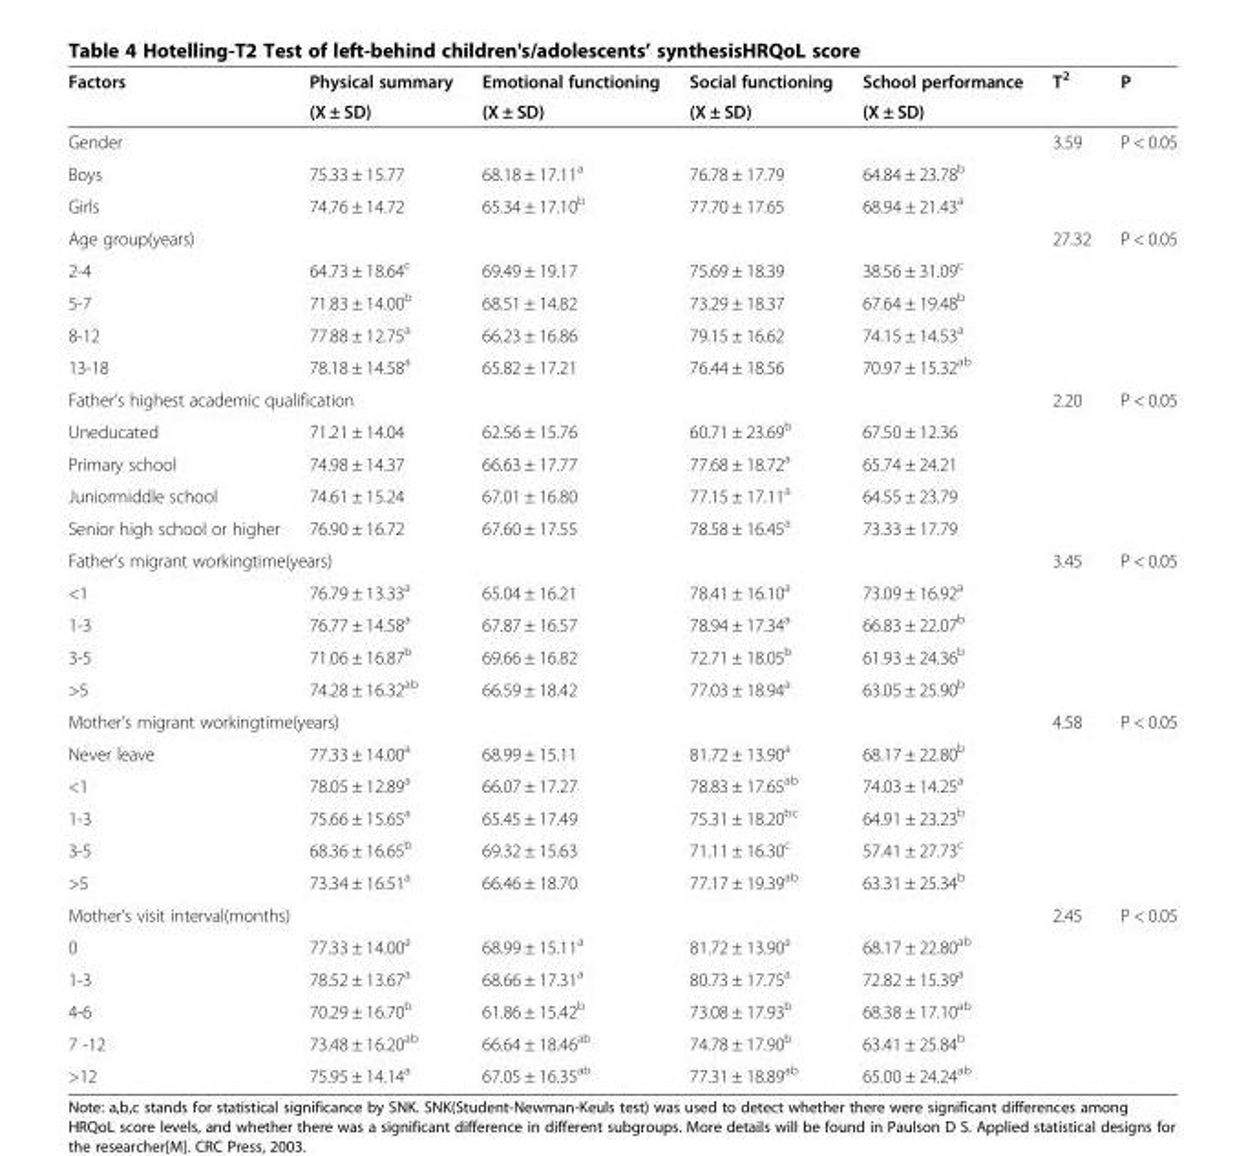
<table><thead><tr><td rowspan="2">Factors</td><td rowspan="2">Physical summary (X ± SD)</td><td rowspan="2">Emotional functioning (X ± SD)</td><td rowspan="2">Social functioning (X ± SD)</td><td rowspan="2">School performance (X ± SD)</td><td rowspan="2">T<sup>2</sup></td><td rowspan="2">P</td></tr><tr></tr></thead><tbody><tr><td colspan="5">Gender</td><td>3.59</td><td>P &lt; 0.05</td></tr><tr><td>Boys</td><td>75.33 ± 15.77</td><td>68.18 ± 17.11<sup>a</sup></td><td>76.78 ± 17.79</td><td>64.84 ± 23.78<sup>b</sup></td><td></td><td></td></tr><tr><td>Girls</td><td>74.76 ± 14.72</td><td>65.34 ± 17.10<sup>b</sup></td><td>77.70 ± 17.65</td><td>68.94 ± 21.43<sup>a</sup></td><td></td><td></td></tr><tr><td colspan="5">Age group(years)</td><td>27.32</td><td>P &lt; 0.05</td></tr><tr><td>2-4</td><td>64.73 ± 18.64<sup>c</sup></td><td>69.49 ± 19.17</td><td>75.69 ± 18.39</td><td>38.56 ± 31.09<sup>c</sup></td><td></td><td></td></tr><tr><td>5-7</td><td>71.83 ± 14.00<sup>b</sup></td><td>68.51 ± 14.82</td><td>73.29 ± 18.37</td><td>67.64 ± 19.48<sup>b</sup></td><td></td><td></td></tr><tr><td>8-12</td><td>77.88 ± 12.75<sup>a</sup></td><td>66.23 ± 16.86</td><td>79.15 ± 16.62</td><td>74.15 ± 14.53<sup>a</sup></td><td></td><td></td></tr><tr><td>13-18</td><td>78.18 ± 14.58<sup>a</sup></td><td>65.82 ± 17.21</td><td>76.44 ± 18.56</td><td>70.97 ± 15.32<sup>ab</sup></td><td></td><td></td></tr><tr><td colspan="5">Father’s highest academic qualification</td><td>2.20</td><td>P &lt; 0.05</td></tr><tr><td>Uneducated</td><td>71.21 ± 14.04</td><td>62.56 ± 15.76</td><td>60.71 ± 23.69<sup>b</sup></td><td>67.50 ± 12.36</td><td></td><td></td></tr><tr><td>Primary school</td><td>74.98 ± 14.37</td><td>66.63 ± 17.77</td><td>77.68 ± 18.72<sup>a</sup></td><td>65.74 ± 24.21</td><td></td><td></td></tr><tr><td>Juniormiddle school</td><td>74.61 ± 15.24</td><td>67.01 ± 16.80</td><td>77.15 ± 17.11<sup>a</sup></td><td>64.55 ± 23.79</td><td></td><td></td></tr><tr><td>Senior high school or higher</td><td>76.90 ± 16.72</td><td>67.60 ± 17.55</td><td>78.58 ± 16.45<sup>a</sup></td><td>73.33 ± 17.79</td><td></td><td></td></tr><tr><td colspan="5">Father’s migrant workingtime(years)</td><td>3.45</td><td>P &lt; 0.05</td></tr><tr><td>&lt;1</td><td>76.79 ± 13.33<sup>a</sup></td><td>65.04 ± 16.21</td><td>78.41 ± 16.10<sup>a</sup></td><td>73.09 ± 16.92<sup>a</sup></td><td></td><td></td></tr><tr><td>1-3</td><td>76.77 ± 14.58<sup>a</sup></td><td>67.87 ± 16.57</td><td>78.94 ± 17.34<sup>a</sup></td><td>66.83 ± 22.07<sup>b</sup></td><td></td><td></td></tr><tr><td>3-5</td><td>71.06 ± 16.87<sup>b</sup></td><td>69.66 ± 16.82</td><td>72.71 ± 18.05<sup>b</sup></td><td>61.93 ± 24.36<sup>b</sup></td><td></td><td></td></tr><tr><td>&gt;5</td><td>74.28 ± 16.32<sup>ab</sup></td><td>66.59 ± 18.42</td><td>77.03 ± 18.94<sup>a</sup></td><td>63.05 ± 25.90<sup>b</sup></td><td></td><td></td></tr><tr><td colspan="5">Mother’s migrant workingtime(years)</td><td>4.58</td><td>P &lt; 0.05</td></tr><tr><td>Never leave</td><td>77.33 ± 14.00<sup>a</sup></td><td>68.99 ± 15.11</td><td>81.72 ± 13.90<sup>a</sup></td><td>68.17 ± 22.80<sup>b</sup></td><td></td><td></td></tr><tr><td>&lt;1</td><td>78.05 ± 12.89<sup>a</sup></td><td>66.07 ± 17.27</td><td>78.83 ± 17.65<sup>ab</sup></td><td>74.03 ± 14.25<sup>a</sup></td><td></td><td></td></tr><tr><td>1-3</td><td>75.66 ± 15.65<sup>a</sup></td><td>65.45 ± 17.49</td><td>75.31 ± 18.20<sup>bc</sup></td><td>64.91 ± 23.23<sup>b</sup></td><td></td><td></td></tr><tr><td>3-5</td><td>68.36 ± 16.65<sup>b</sup></td><td>69.32 ± 15.63</td><td>71.11 ± 16.30<sup>c</sup></td><td>57.41 ± 27.73<sup>c</sup></td><td></td><td></td></tr><tr><td>&gt;5</td><td>73.34 ± 16.51<sup>a</sup></td><td>66.46 ± 18.70</td><td>77.17 ± 19.39<sup>ab</sup></td><td>63.31 ± 25.34<sup>b</sup></td><td></td><td></td></tr><tr><td colspan="5">Mother’s visit interval(months)</td><td>2.45</td><td>P &lt; 0.05</td></tr><tr><td>0</td><td>77.33 ± 14.00<sup>a</sup></td><td>68.99 ± 15.11<sup>a</sup></td><td>81.72 ± 13.90<sup>a</sup></td><td>68.17 ± 22.80<sup>ab</sup></td><td></td><td></td></tr><tr><td>1-3</td><td>78.52 ± 13.67<sup>a</sup></td><td>68.66 ± 17.31<sup>a</sup></td><td>80.73 ± 17.75<sup>a</sup></td><td>72.82 ± 15.39<sup>a</sup></td><td></td><td></td></tr><tr><td>4-6</td><td>70.29 ± 16.70<sup>b</sup></td><td>61.86 ± 15.42<sup>b</sup></td><td>73.08 ± 17.93<sup>b</sup></td><td>68.38 ± 17.10<sup>ab</sup></td><td></td><td></td></tr><tr><td>7 -12</td><td>73.48 ± 16.20<sup>ab</sup></td><td>66.64 ± 18.46<sup>ab</sup></td><td>74.78 ± 17.90<sup>b</sup></td><td>63.41 ± 25.84<sup>b</sup></td><td></td><td></td></tr><tr><td>&gt;12</td><td>75.95 ± 14.14<sup>a</sup></td><td>67.05 ± 16.35<sup>ab</sup></td><td>77.31 ± 18.89<sup>ab</sup></td><td>65.00 ± 24.24<sup>ab</sup></td><td></td><td></td></tr></tbody></table>